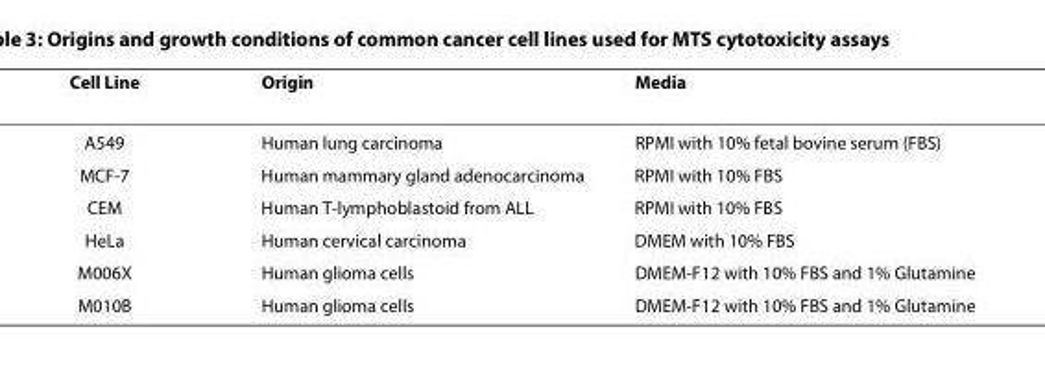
<table><thead><tr><td>Cell Line</td><td>Origin</td><td>Media</td></tr></thead><tbody><tr><td>A549</td><td>Human lung carcinoma</td><td>RPMI with 10% fetal bovine serum (FBS)</td></tr><tr><td>MCF-7</td><td>Human mammary gland adenocarcinoma</td><td>RPMI with 10% FBS</td></tr><tr><td>CEM</td><td>Human T-lymphoblastoid from ALL</td><td>RPMI with 10% FBS</td></tr><tr><td>HeLa</td><td>Human cervical carcinoma</td><td>DMEM with 10% FBS</td></tr><tr><td>M006X</td><td>Human glioma cells</td><td>DMEM-F12 with 10% FBS and 1% Glutamine</td></tr><tr><td>M010B</td><td>Human glioma cells</td><td>DMEM-F12 with 10% FBS and 1% Glutamine</td></tr></tbody></table>